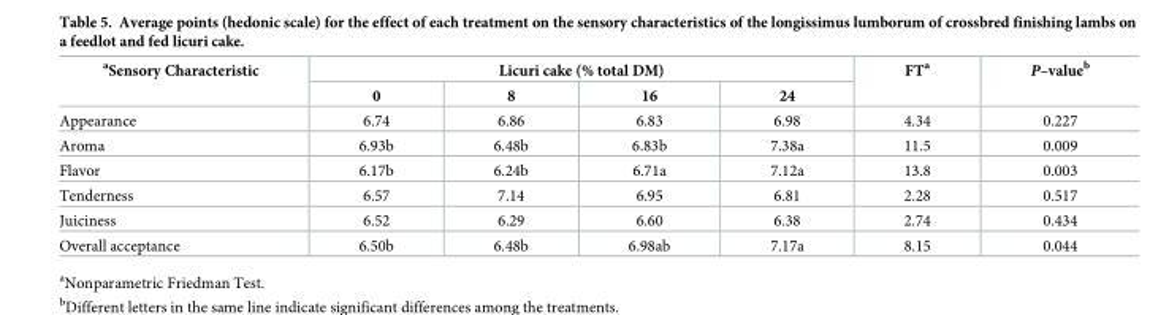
<table><thead><tr><td rowspan="2"><sup>a</sup>Sensory Characteristic</td><td colspan="4">Licuri cake (% total DM)</td><td rowspan="2">FT<sup>a</sup></td><td rowspan="2">P–value<sup>b</sup></td></tr><tr><td>0</td><td>8</td><td>16</td><td>24</td></tr></thead><tbody><tr><td>Appearance</td><td>6.74</td><td>6.86</td><td>6.83</td><td>6.98</td><td>4.34</td><td>0.227</td></tr><tr><td>Aroma</td><td>6.93b</td><td>6.48b</td><td>6.83b</td><td>7.38a</td><td>11.5</td><td>0.009</td></tr><tr><td>Flavor</td><td>6.17b</td><td>6.24b</td><td>6.71a</td><td>7.12a</td><td>13.8</td><td>0.003</td></tr><tr><td>Tenderness</td><td>6.57</td><td>7.14</td><td>6.95</td><td>6.81</td><td>2.28</td><td>0.517</td></tr><tr><td>Juiciness</td><td>6.52</td><td>6.29</td><td>6.60</td><td>6.38</td><td>2.74</td><td>0.434</td></tr><tr><td>Overall acceptance</td><td>6.50b</td><td>6.48b</td><td>6.98ab</td><td>7.17a</td><td>8.15</td><td>0.044</td></tr></tbody></table>